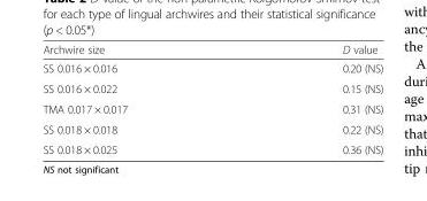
<table><thead><tr><td>Archwire size</td><td>D value</td></tr></thead><tbody><tr><td>SS 0.016 × 0.016</td><td>0.20 (NS)</td></tr><tr><td>SS 0.016 × 0.022</td><td>0.15 (NS)</td></tr><tr><td>TMA 0.017 × 0.017</td><td>0.31 (NS)</td></tr><tr><td>SS 0.018 × 0.018</td><td>0.22 (NS)</td></tr><tr><td>SS 0.018 × 0.025</td><td>0.36 (NS)</td></tr></tbody></table>